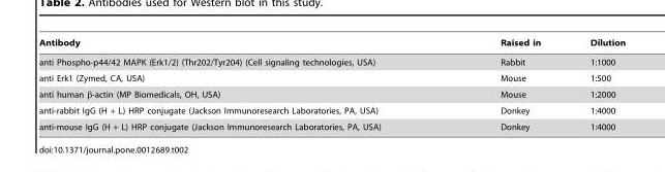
<table><thead><tr><td>Antibody</td><td>Raised in</td><td>Dilution</td></tr></thead><tbody><tr><td>anti Phospho-p44/42 MAPK (Erk1/2) (Thr202/Tyr204) (Cell signaling technologies, USA)</td><td>Rabbit</td><td>1:1000</td></tr><tr><td>anti Erk1 (Zymed, CA, USA)</td><td>Mouse</td><td>1:500</td></tr><tr><td>anti human β-actin (MP Biomedicals, OH, USA)</td><td>Mouse</td><td>1:2000</td></tr><tr><td>anti-rabbit IgG (H + L) HRP conjugate (Jackson Immunoresearch Laboratories, PA, USA)</td><td>Donkey</td><td>1:4000</td></tr><tr><td>anti-mouse IgG (H + L) HRP conjugate (Jackson Immunoresearch Laboratories, PA, USA)</td><td>Donkey</td><td>1:4000</td></tr></tbody></table>